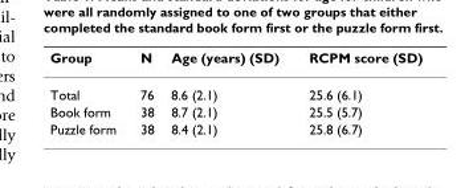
<table><thead><tr><td>Group</td><td>N</td><td>Age (years) (SD)</td><td>RCPM score (SD)</td></tr></thead><tbody><tr><td>Total</td><td>76</td><td>8.6 (2.1)</td><td>25.6 (6.1)</td></tr><tr><td>Book form</td><td>38</td><td>8.7 (2.1)</td><td>25.5 (5.7)</td></tr><tr><td>Puzzle form</td><td>38</td><td>8.4 (2.1)</td><td>25.8 (6.7)</td></tr></tbody></table>